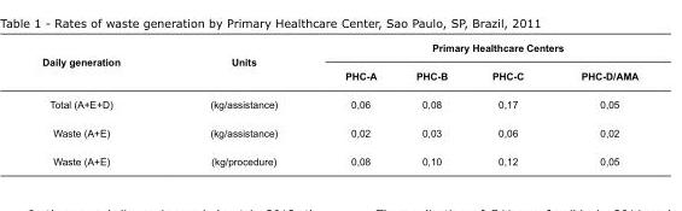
<table><tbody><tr><td rowspan="2">Daily generation</td><td rowspan="2">Units</td><td colspan="4">Primary Healthcare Centers</td></tr><tr><td>PHC-A</td><td>PHC-B</td><td>PHC-C</td><td>PHC-D/AMA</td></tr><tr><td>Total (A+E+D)</td><td>(kg/assistance)</td><td>0,06</td><td>0,08</td><td>0,17</td><td>0,05</td></tr><tr><td>Waste (A+E)</td><td>(kg/assistance)</td><td>0,02</td><td>0,03</td><td>0,06</td><td>0,02</td></tr><tr><td>Waste (A+E)</td><td>(kg/procedure)</td><td>0,08</td><td>0,10</td><td>0,12</td><td>0,05</td></tr></tbody></table>